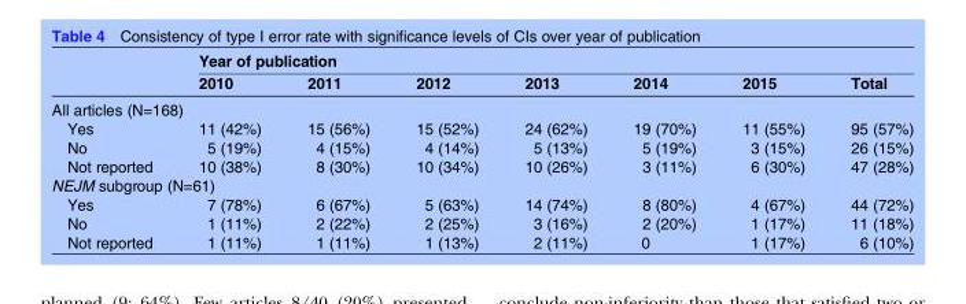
<table><thead><tr><td rowspan="2"></td><td colspan="7">Year of publication</td></tr><tr><td>2010</td><td>2011</td><td>2012</td><td>2013</td><td>2014</td><td>2015</td><td>Total</td></tr></thead><tbody><tr><td colspan="8">All articles (N=168)</td></tr><tr><td>Yes</td><td>11 (42%)</td><td>15 (56%)</td><td>15 (52%)</td><td>24 (62%)</td><td>19 (70%)</td><td>11 (55%)</td><td>95 (57%)</td></tr><tr><td>No</td><td>5 (19%)</td><td>4 (15%)</td><td>4 (14%)</td><td>5 (13%)</td><td>5 (19%)</td><td>3 (15%)</td><td>26 (15%)</td></tr><tr><td>Not reported</td><td>10 (38%)</td><td>8 (30%)</td><td>10 (34%)</td><td>10 (26%)</td><td>3 (11%)</td><td>6 (30%)</td><td>47 (28%)</td></tr><tr><td colspan="8">NEJM subgroup (N=61)</td></tr><tr><td>Yes</td><td>7 (78%)</td><td>6 (67%)</td><td>5 (63%)</td><td>14 (74%)</td><td>8 (80%)</td><td>4 (67%)</td><td>44 (72%)</td></tr><tr><td>No</td><td>1 (11%)</td><td>2 (22%)</td><td>2 (25%)</td><td>3 (16%)</td><td>2 (20%)</td><td>1 (17%)</td><td>11 (18%)</td></tr><tr><td>Not reported</td><td>1 (11%)</td><td>1 (11%)</td><td>1 (13%)</td><td>2 (11%)</td><td>0</td><td>1 (17%)</td><td>6 (10%)</td></tr></tbody></table>